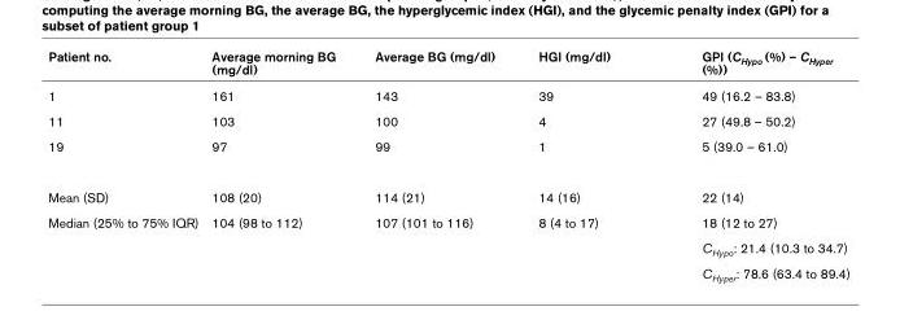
<table><thead><tr><td>Patient no.</td><td>Average morning BG (mg/dl)</td><td>Average BG (mg/dl)</td><td>HGI (mg/dl)</td><td>GPI (C<sub>Hypo</sub> (%) – C<sub>Hyper</sub> (%))</td></tr></thead><tbody><tr><td>1</td><td>161</td><td>143</td><td>39</td><td>49 (16.2 – 83.8)</td></tr><tr><td>11</td><td>103</td><td>100</td><td>4</td><td>27 (49.8 – 50.2)</td></tr><tr><td>19</td><td>97</td><td>99</td><td>1</td><td>5 (39.0 – 61.0)</td></tr><tr><td>Mean (SD)</td><td>108 (20)</td><td>114 (21)</td><td>14 (16)</td><td>22 (14)</td></tr><tr><td rowspan="3">Median (25% to 75% IQR)</td><td>104 (98 to 112)</td><td>107 (101 to 116)</td><td>8 (4 to 17)</td><td>18 (12 to 27)</td></tr><tr><td></td><td></td><td></td><td>C<sub>Hypo</sub>: 21.4 (10.3 to 34.7)</td></tr><tr><td></td><td></td><td></td><td>C<sub>Hyper</sub>: 78.6 (63.4 to 89.4)</td></tr></tbody></table>